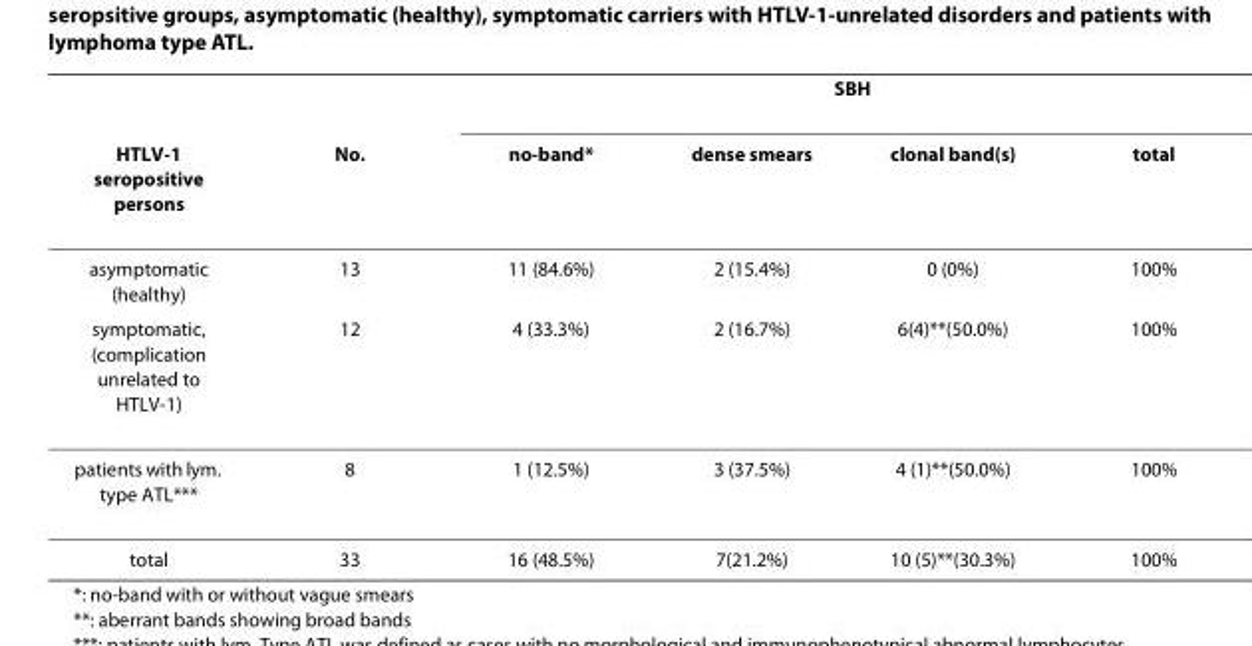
<table><thead><tr><td rowspan="2">HTLV-1 seropositive persons</td><td rowspan="2">No.</td><td colspan="4">SBH</td></tr><tr><td>no-band*</td><td>dense smears</td><td>clonal band(s)</td><td>total</td></tr></thead><tbody><tr><td>asymptomatic (healthy)</td><td>13</td><td>11 (84.6%)</td><td>2 (15.4%)</td><td>0 (0%)</td><td>100%</td></tr><tr><td>symptomatic, (complication unrelated to HTLV-1)</td><td>12</td><td>4 (33.3%)</td><td>2 (16.7%)</td><td>6(4)**(50.0%)</td><td>100%</td></tr><tr><td>patients with lym. type ATL***</td><td>8</td><td>1 (12.5%)</td><td>3 (37.5%)</td><td>4 (1)**(50.0%)</td><td>100%</td></tr><tr><td>total</td><td>33</td><td>16 (48.5%)</td><td>7(21.2%)</td><td>10 (5)**(30.3%)</td><td>100%</td></tr></tbody></table>